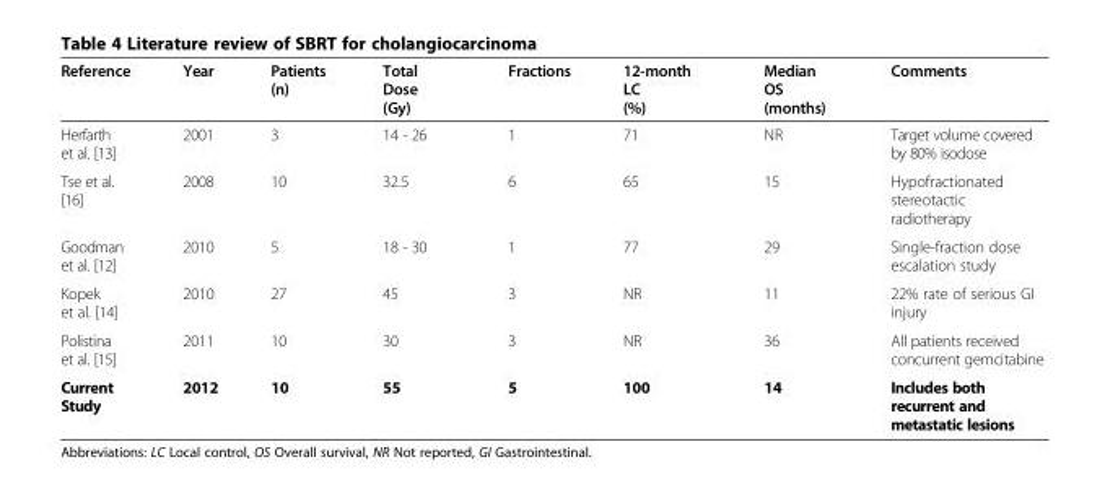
<table><thead><tr><td>Reference</td><td>Year</td><td>Patients (n)</td><td>Total Dose (Gy)</td><td>Fractions</td><td>12-month LC (%)</td><td>Median OS (months)</td><td>Comments</td></tr></thead><tbody><tr><td>Herfarth et al. [13]</td><td>2001</td><td>3</td><td>14 - 26</td><td>1</td><td>71</td><td>NR</td><td>Target volume covered by 80% isodose</td></tr><tr><td>Tse et al. [16]</td><td>2008</td><td>10</td><td>32.5</td><td>6</td><td>65</td><td>15</td><td>Hypofractionated stereotactic radiotherapy</td></tr><tr><td>Goodman et al. [12]</td><td>2010</td><td>5</td><td>18 - 30</td><td>1</td><td>77</td><td>29</td><td>Single-fraction dose escalation study</td></tr><tr><td>Kopek et al. [14]</td><td>2010</td><td>27</td><td>45</td><td>3</td><td>NR</td><td>11</td><td>22% rate of serious GI injury</td></tr><tr><td>Polistina et al. [15]</td><td>2011</td><td>10</td><td>30</td><td>3</td><td>NR</td><td>36</td><td>All patients received concurrent gemcitabine</td></tr><tr><td>Current Study</td><td>2012</td><td>10</td><td>55</td><td>5</td><td>100</td><td>14</td><td>Includes both recurrent and metastatic lesions</td></tr></tbody></table>